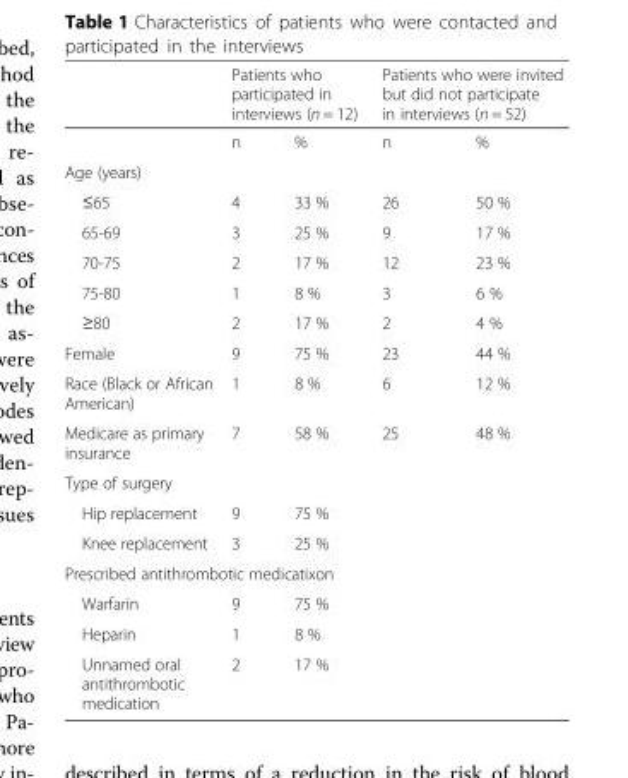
<table><thead><tr><td rowspan="2"></td><td colspan="2">Patients who participated in interviews (n = 12)</td><td colspan="2">Patients who were invited but did not participate in interviews (n = 52)</td></tr><tr><td>n</td><td>%</td><td>n</td><td>%</td></tr></thead><tbody><tr><td colspan="5">Age (years)</td></tr><tr><td>≤65</td><td>4</td><td>33 %</td><td>26</td><td>50 %</td></tr><tr><td>65-69</td><td>3</td><td>25 %</td><td>9</td><td>17 %</td></tr><tr><td>70-75</td><td>2</td><td>17 %</td><td>12</td><td>23 %</td></tr><tr><td>75-80</td><td>1</td><td>8 %</td><td>3</td><td>6 %</td></tr><tr><td>≥80</td><td>2</td><td>17 %</td><td>2</td><td>4 %</td></tr><tr><td>Female</td><td>9</td><td>75 %</td><td>23</td><td>44 %</td></tr><tr><td>Race (Black or African American)</td><td>1</td><td>8 %</td><td>6</td><td>12 %</td></tr><tr><td>Medicare as primary insurance</td><td>7</td><td>58 %</td><td>25</td><td>48 %</td></tr><tr><td colspan="5">Type of surgery</td></tr><tr><td>Hip replacement</td><td>9</td><td>75 %</td><td></td><td></td></tr><tr><td>Knee replacement</td><td>3</td><td>25 %</td><td></td><td></td></tr><tr><td colspan="5">Prescribed antithrombotic medicatixon</td></tr><tr><td>Warfarin</td><td>9</td><td>75 %</td><td></td><td></td></tr><tr><td>Heparin</td><td>1</td><td>8 %</td><td></td><td></td></tr><tr><td>Unnamed oral antithrombotic medication</td><td>2</td><td>17 %</td><td></td><td></td></tr></tbody></table>